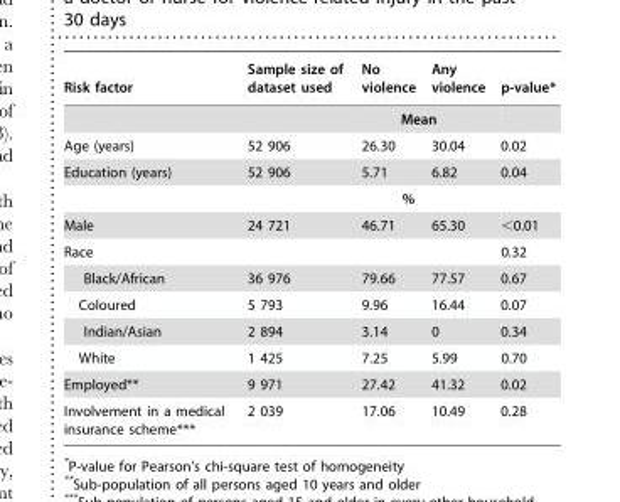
<table><thead><tr><td>Risk factor</td><td>Sample size of dataset used</td><td>No violence</td><td>Any violence</td><td>p-value*</td></tr></thead><tbody><tr><td></td><td></td><td colspan="2">Mean</td><td></td></tr><tr><td>Age (years)</td><td>52 906</td><td>26.30</td><td>30.04</td><td>0.02</td></tr><tr><td rowspan="2">Education (years)</td><td>52 906</td><td>5.71</td><td>6.82</td><td>0.04</td></tr><tr><td></td><td colspan="2">%</td><td></td></tr><tr><td>Male</td><td>24 721</td><td>46.71</td><td>65.30</td><td>&lt;0.01</td></tr><tr><td>Race</td><td></td><td></td><td></td><td>0.32</td></tr><tr><td>Black/African</td><td>36 976</td><td>79.66</td><td>77.57</td><td>0.67</td></tr><tr><td>Coloured</td><td>5 793</td><td>9.96</td><td>16.44</td><td>0.07</td></tr><tr><td>Indian/Asian</td><td>2 894</td><td>3.14</td><td>0</td><td>0.34</td></tr><tr><td>White</td><td>1 425</td><td>7.25</td><td>5.99</td><td>0.70</td></tr><tr><td>Employed**</td><td>9 971</td><td>27.42</td><td>41.32</td><td>0.02</td></tr><tr><td>Involvement in a medical insurance scheme***</td><td>2 039</td><td>17.06</td><td>10.49</td><td>0.28</td></tr></tbody></table>